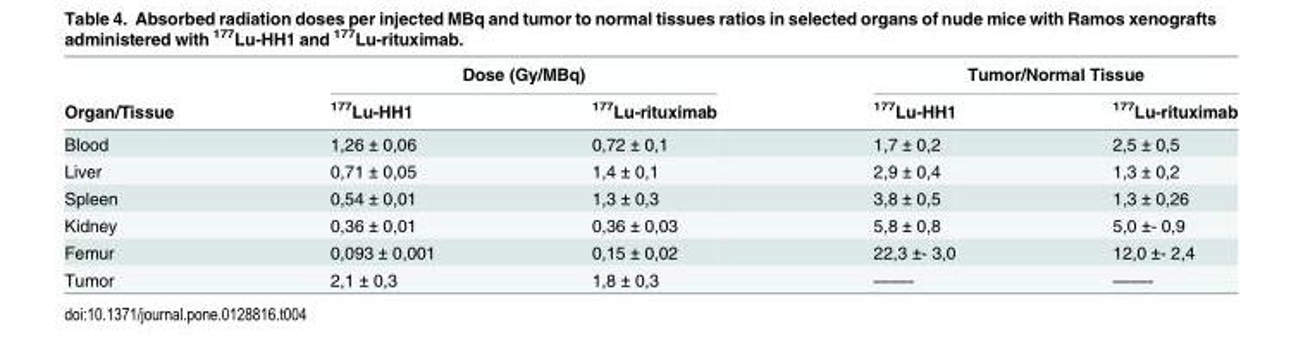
<table><thead><tr><td rowspan="2">Organ/Tissue</td><td colspan="2">Dose (Gy/MBq)</td><td colspan="2">Tumor/Normal Tissue</td></tr><tr><td><sup>177</sup>Lu-HH1</td><td><sup>177</sup>Lu-rituximab</td><td><sup>177</sup>Lu-HH1</td><td><sup>177</sup>Lu-rituximab</td></tr></thead><tbody><tr><td>Blood</td><td>1,26 ± 0,06</td><td>0,72 ± 0,1</td><td>1,7 ± 0,2</td><td>2,5 ± 0,5</td></tr><tr><td>Liver</td><td>0,71 ± 0,05</td><td>1,4 ± 0,1</td><td>2,9 ± 0,4</td><td>1,3 ± 0,2</td></tr><tr><td>Spleen</td><td>0,54 ± 0,01</td><td>1,3 ± 0,3</td><td>3,8 ± 0,5</td><td>1,3 ± 0,26</td></tr><tr><td>Kidney</td><td>0,36 ± 0,01</td><td>0,36 ± 0,03</td><td>5,8 ± 0,8</td><td>5,0 ±- 0,9</td></tr><tr><td>Femur</td><td>0,093 ± 0,001</td><td>0,15 ± 0,02</td><td>22,3 ±- 3,0</td><td>12,0 ±- 2,4</td></tr><tr><td>Tumor</td><td>2,1 ± 0,3</td><td>1,8 ± 0,3</td><td>——-</td><td>——-</td></tr></tbody></table>